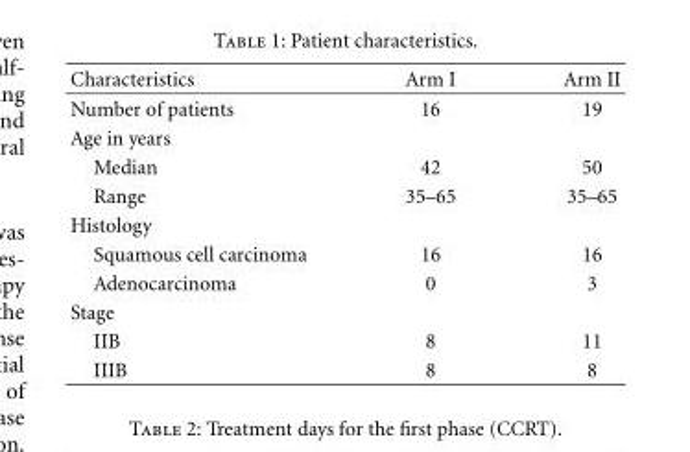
<table><thead><tr><td>Characteristics</td><td>Arm I</td><td>Arm II</td></tr></thead><tbody><tr><td>Number of patients</td><td>16</td><td>19</td></tr><tr><td colspan="3">Age in years</td></tr><tr><td>Median</td><td>42</td><td>50</td></tr><tr><td>Range</td><td>35–65</td><td>35–65</td></tr><tr><td colspan="3">Histology</td></tr><tr><td>Squamous cell carcinoma</td><td>16</td><td>16</td></tr><tr><td>Adenocarcinoma</td><td>0</td><td>3</td></tr><tr><td colspan="3">Stage</td></tr><tr><td>IIB</td><td>8</td><td>11</td></tr><tr><td>IIIB</td><td>8</td><td>8</td></tr></tbody></table>